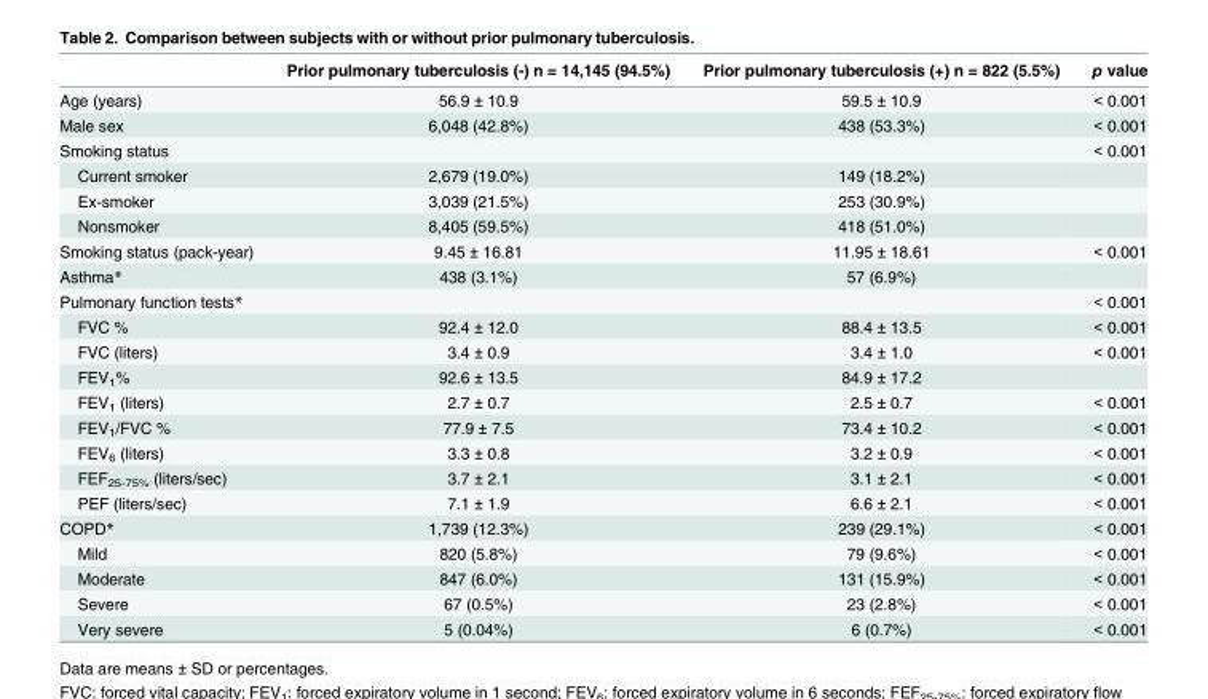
<table><thead><tr><td></td><td>Prior pulmonary tuberculosis (-) n = 14,145 (94.5%)</td><td>Prior pulmonary tuberculosis (+) n = 822 (5.5%)</td><td>p value</td></tr></thead><tbody><tr><td>Age (years)</td><td>56.9 ± 10.9</td><td>59.5 ± 10.9</td><td>&lt; 0.001</td></tr><tr><td>Male sex</td><td>6,048 (42.8%)</td><td>438 (53.3%)</td><td>&lt; 0.001</td></tr><tr><td>Smoking status</td><td></td><td></td><td>&lt; 0.001</td></tr><tr><td>Current smoker</td><td>2,679 (19.0%)</td><td>149 (18.2%)</td><td></td></tr><tr><td>Ex-smoker</td><td>3,039 (21.5%)</td><td>253 (30.9%)</td><td></td></tr><tr><td>Nonsmoker</td><td>8,405 (59.5%)</td><td>418 (51.0%)</td><td></td></tr><tr><td>Smoking status (pack-year)</td><td>9.45 ± 16.81</td><td>11.95 ± 18.61</td><td>&lt; 0.001</td></tr><tr><td>Asthma*</td><td>438 (3.1%)</td><td>57 (6.9%)</td><td></td></tr><tr><td>Pulmonary function tests*</td><td></td><td></td><td>&lt; 0.001</td></tr><tr><td>FVC %</td><td>92.4 ± 12.0</td><td>88.4 ± 13.5</td><td>&lt; 0.001</td></tr><tr><td>FVC (liters)</td><td>3.4 ± 0.9</td><td>3.4 ± 1.0</td><td>&lt; 0.001</td></tr><tr><td>FEV<sub>1</sub>%</td><td>92.6 ± 13.5</td><td>84.9 ± 17.2</td><td></td></tr><tr><td>FEV<sub>1</sub> (liters)</td><td>2.7 ± 0.7</td><td>2.5 ± 0.7</td><td>&lt; 0.001</td></tr><tr><td>FEV<sub>1</sub>/FVC %</td><td>77.9 ± 7.5</td><td>73.4 ± 10.2</td><td>&lt; 0.001</td></tr><tr><td>FEV<sub>6</sub> (liters)</td><td>3.3 ± 0.8</td><td>3.2 ± 0.9</td><td>&lt; 0.001</td></tr><tr><td>FEF<sub>25-75%</sub> (liters/sec)</td><td>3.7 ± 2.1</td><td>3.1 ± 2.1</td><td>&lt; 0.001</td></tr><tr><td>PEF (liters/sec)</td><td>7.1 ± 1.9</td><td>6.6 ± 2.1</td><td>&lt; 0.001</td></tr><tr><td>COPD*</td><td>1,739 (12.3%)</td><td>239 (29.1%)</td><td>&lt; 0.001</td></tr><tr><td>Mild</td><td>820 (5.8%)</td><td>79 (9.6%)</td><td>&lt; 0.001</td></tr><tr><td>Moderate</td><td>847 (6.0%)</td><td>131 (15.9%)</td><td>&lt; 0.001</td></tr><tr><td>Severe</td><td>67 (0.5%)</td><td>23 (2.8%)</td><td>&lt; 0.001</td></tr><tr><td>Very severe</td><td>5 (0.04%)</td><td>6 (0.7%)</td><td>&lt; 0.001</td></tr></tbody></table>